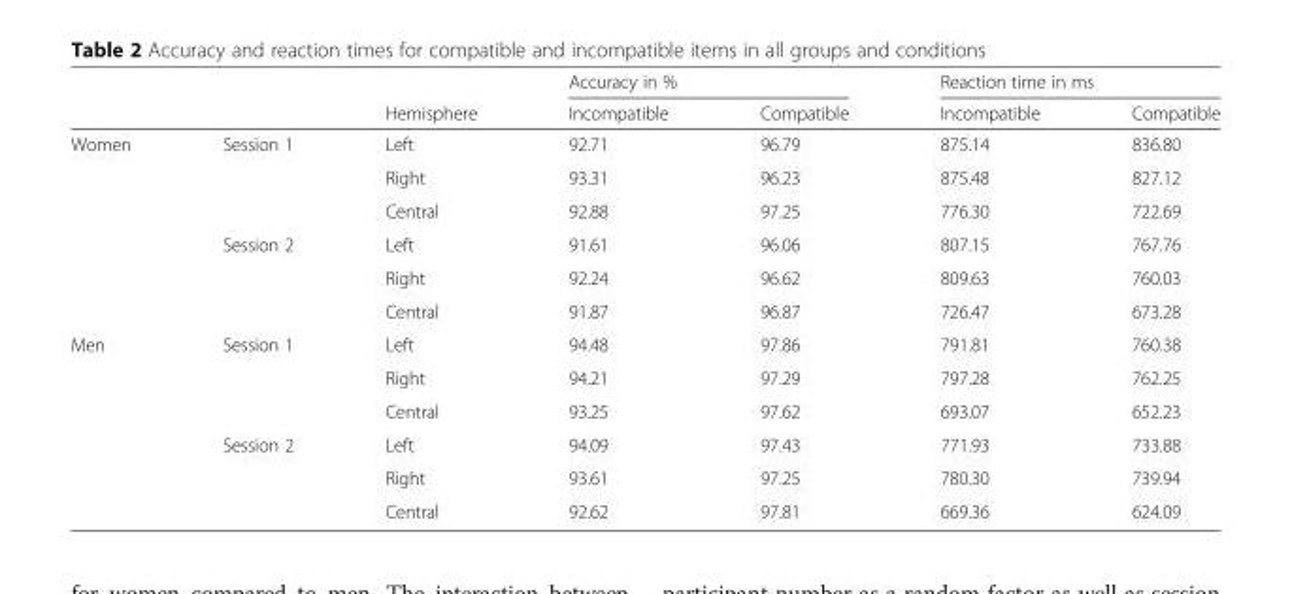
<table><thead><tr><td rowspan="2"></td><td rowspan="2"></td><td rowspan="2">Hemisphere</td><td colspan="2">Accuracy in %</td><td colspan="2">Reaction time in ms</td></tr><tr><td>Incompatible</td><td>Compatible</td><td>Incompatible</td><td>Compatible</td></tr></thead><tbody><tr><td rowspan="6">Women</td><td rowspan="2">Session 1</td><td>Left</td><td>92.71</td><td>96.79</td><td>875.14</td><td>836.80</td></tr><tr><td>Right</td><td>93.31</td><td>96.23</td><td>875.48</td><td>827.12</td></tr><tr><td></td><td>Central</td><td>92.88</td><td>97.25</td><td>776.30</td><td>722.69</td></tr><tr><td rowspan="2">Session 2</td><td>Left</td><td>91.61</td><td>96.06</td><td>807.15</td><td>767.76</td></tr><tr><td>Right</td><td>92.24</td><td>96.62</td><td>809.63</td><td>760.03</td></tr><tr><td></td><td>Central</td><td>91.87</td><td>96.87</td><td>726.47</td><td>673.28</td></tr><tr><td rowspan="6">Men</td><td rowspan="2">Session 1</td><td>Left</td><td>94.48</td><td>97.86</td><td>791.81</td><td>760.38</td></tr><tr><td>Right</td><td>94.21</td><td>97.29</td><td>797.28</td><td>762.25</td></tr><tr><td></td><td>Central</td><td>93.25</td><td>97.62</td><td>693.07</td><td>652.23</td></tr><tr><td rowspan="2">Session 2</td><td>Left</td><td>94.09</td><td>97.43</td><td>771.93</td><td>733.88</td></tr><tr><td>Right</td><td>93.61</td><td>97.25</td><td>780.30</td><td>739.94</td></tr><tr><td></td><td>Central</td><td>92.62</td><td>97.81</td><td>669.36</td><td>624.09</td></tr></tbody></table>